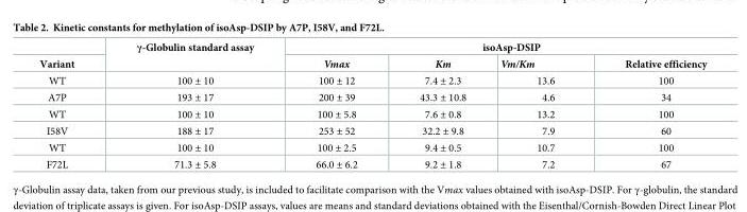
<table><thead><tr><td rowspan="2">Variant</td><td rowspan="2">γ-Globulin standard assay</td><td colspan="4">isoAsp-DSIP</td></tr><tr><td>Vmax</td><td>Km</td><td>Vm/Km</td><td>Relative efficiency</td></tr></thead><tbody><tr><td>WT</td><td>100 ± 10</td><td>100 ± 12</td><td>7.4 ± 2.3</td><td>13.6</td><td>100</td></tr><tr><td>A7P</td><td>193 ± 17</td><td>200 ± 39</td><td>43.3 ± 10.8</td><td>4.6</td><td>34</td></tr><tr><td>WT</td><td>100 ± 10</td><td>100 ± 5.8</td><td>7.6 ± 0.8</td><td>13.2</td><td>100</td></tr><tr><td>I58V</td><td>188 ± 17</td><td>253 ± 52</td><td>32.2 ± 9.8</td><td>7.9</td><td>60</td></tr><tr><td>WT</td><td>100 ± 10</td><td>100 ± 2.5</td><td>9.4 ± 0.5</td><td>10.7</td><td>100</td></tr><tr><td>F72L</td><td>71.3 ± 5.8</td><td>66.0 ± 6.2</td><td>9.2 ± 1.8</td><td>7.2</td><td>67</td></tr></tbody></table>